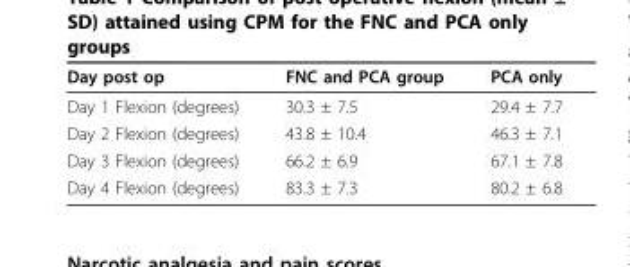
<table><thead><tr><td>Day post op</td><td>FNC and PCA group</td><td>PCA only</td></tr></thead><tbody><tr><td>Day 1 Flexion (degrees)</td><td>30.3 ± 7.5</td><td>29.4 ± 7.7</td></tr><tr><td>Day 2 Flexion (degrees)</td><td>43.8 ± 10.4</td><td>46.3 ± 7.1</td></tr><tr><td>Day 3 Flexion (degrees)</td><td>66.2 ± 6.9</td><td>67.1 ± 7.8</td></tr><tr><td>Day 4 Flexion (degrees)</td><td>83.3 ± 7.3</td><td>80.2 ± 6.8</td></tr></tbody></table>